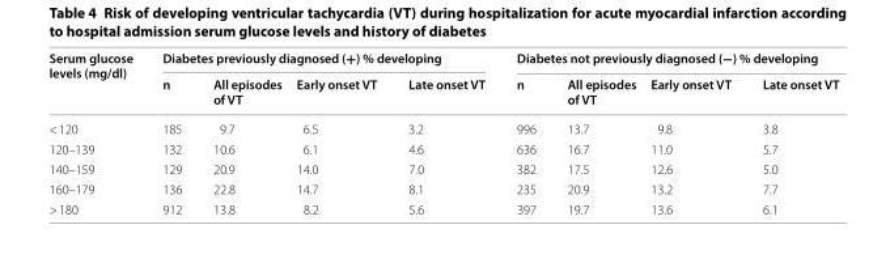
<table><thead><tr><td rowspan="2">Serum glucose levels (mg/dl)</td><td colspan="4">Diabetes previously diagnosed (+) % developing</td><td colspan="4">Diabetes not previously diagnosed (−) % developing</td></tr><tr><td>n</td><td>All episodes of VT</td><td>Early onset VT</td><td>Late onset VT</td><td>n</td><td>All episodes of VT</td><td>Early onset VT</td><td>Late onset VT</td></tr></thead><tbody><tr><td>&lt; 120</td><td>185</td><td>9.7</td><td>6.5</td><td>3.2</td><td>996</td><td>13.7</td><td>9.8</td><td>3.8</td></tr><tr><td>120–139</td><td>132</td><td>10.6</td><td>6.1</td><td>4.6</td><td>636</td><td>16.7</td><td>11.0</td><td>5.7</td></tr><tr><td>140–159</td><td>129</td><td>20.9</td><td>14.0</td><td>7.0</td><td>382</td><td>17.5</td><td>12.6</td><td>5.0</td></tr><tr><td>160–179</td><td>136</td><td>22.8</td><td>14.7</td><td>8.1</td><td>235</td><td>20.9</td><td>13.2</td><td>7.7</td></tr><tr><td>&gt; 180</td><td>912</td><td>13.8</td><td>8.2</td><td>5.6</td><td>397</td><td>19.7</td><td>13.6</td><td>6.1</td></tr></tbody></table>